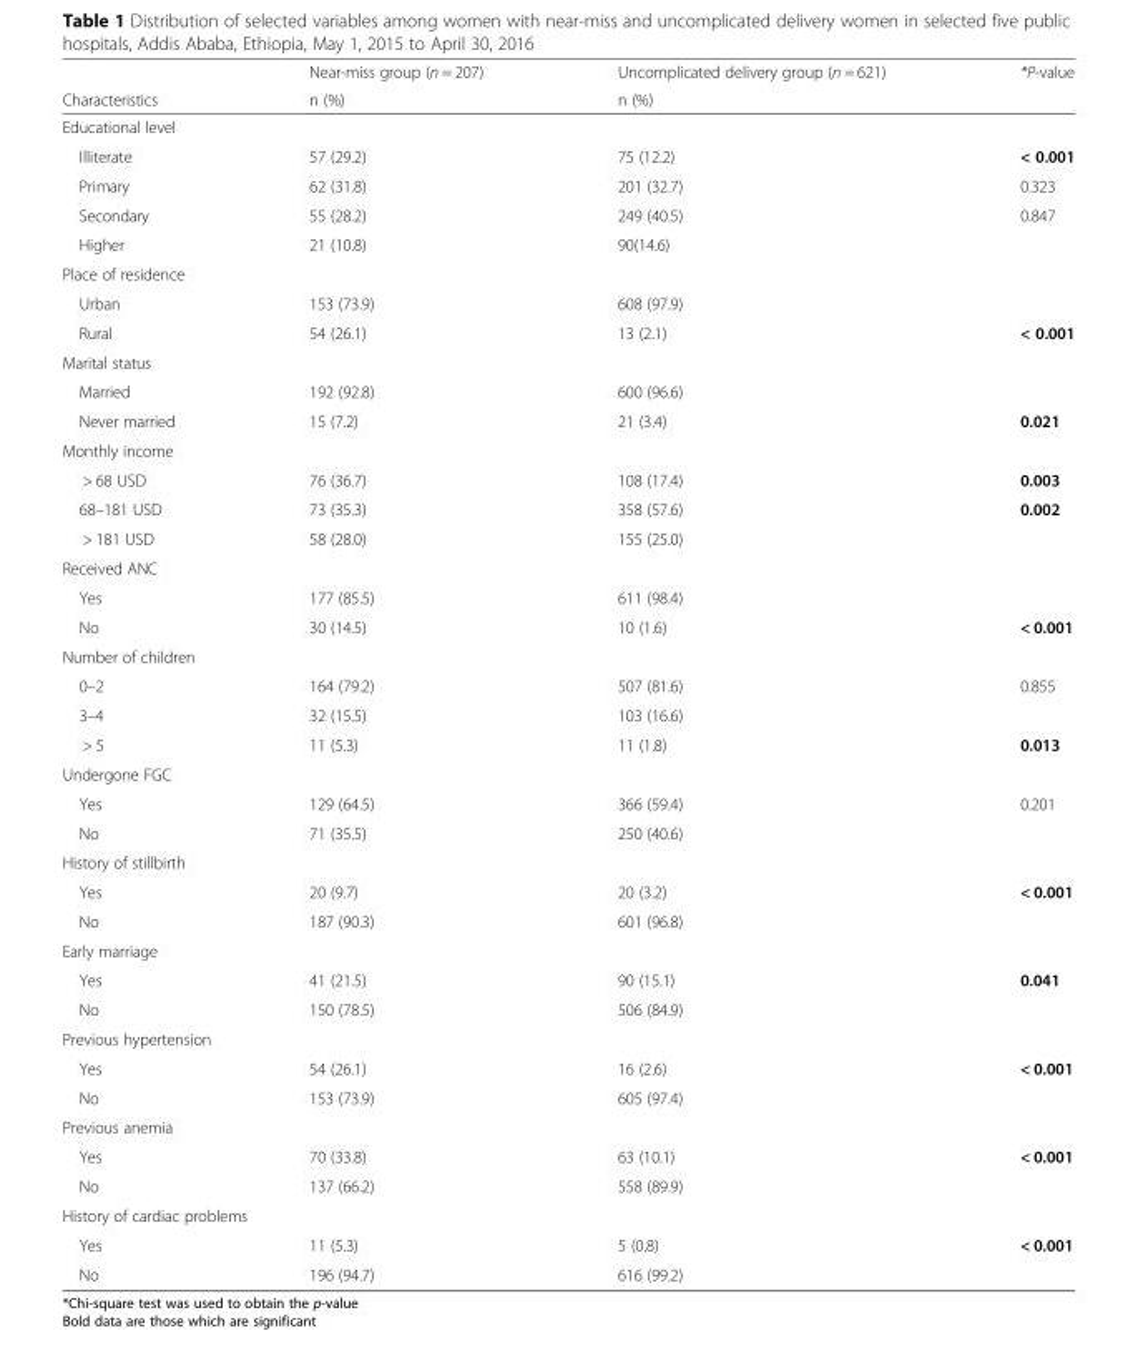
<table><thead><tr><td rowspan="2">Characteristics</td><td rowspan="2">Near-miss group (n = 207) n (%)</td><td rowspan="2">Uncomplicated delivery group (n = 621) n (%)</td><td rowspan="2">*P-value</td></tr><tr></tr></thead><tbody><tr><td colspan="4">Educational level</td></tr><tr><td>Illiterate</td><td>57 (29.2)</td><td>75 (12.2)</td><td>&lt; 0.001</td></tr><tr><td>Primary</td><td>62 (31.8)</td><td>201 (32.7)</td><td>0.323</td></tr><tr><td>Secondary</td><td>55 (28.2)</td><td>249 (40.5)</td><td>0.847</td></tr><tr><td>Higher</td><td>21 (10.8)</td><td>90(14.6)</td><td></td></tr><tr><td colspan="4">Place of residence</td></tr><tr><td>Urban</td><td>153 (73.9)</td><td>608 (97.9)</td><td></td></tr><tr><td>Rural</td><td>54 (26.1)</td><td>13 (2.1)</td><td>&lt; 0.001</td></tr><tr><td colspan="4">Marital status</td></tr><tr><td>Married</td><td>192 (92.8)</td><td>600 (96.6)</td><td></td></tr><tr><td>Never married</td><td>15 (7.2)</td><td>21 (3.4)</td><td>0.021</td></tr><tr><td colspan="4">Monthly income</td></tr><tr><td>&gt; 68 USD</td><td>76 (36.7)</td><td>108 (17.4)</td><td>0.003</td></tr><tr><td>68–181 USD</td><td>73 (35.3)</td><td>358 (57.6)</td><td>0.002</td></tr><tr><td>&gt; 181 USD</td><td>58 (28.0)</td><td>155 (25.0)</td><td></td></tr><tr><td colspan="4">Received ANC</td></tr><tr><td>Yes</td><td>177 (85.5)</td><td>611 (98.4)</td><td></td></tr><tr><td>No</td><td>30 (14.5)</td><td>10 (1.6)</td><td>&lt; 0.001</td></tr><tr><td colspan="4">Number of children</td></tr><tr><td>0–2</td><td>164 (79.2)</td><td>507 (81.6)</td><td>0.855</td></tr><tr><td>3–4</td><td>32 (15.5)</td><td>103 (16.6)</td><td></td></tr><tr><td>&gt; 5</td><td>11 (5.3)</td><td>11 (1.8)</td><td>0.013</td></tr><tr><td colspan="4">Undergone FGC</td></tr><tr><td>Yes</td><td>129 (64.5)</td><td>366 (59.4)</td><td>0.201</td></tr><tr><td>No</td><td>71 (35.5)</td><td>250 (40.6)</td><td></td></tr><tr><td colspan="4">History of stillbirth</td></tr><tr><td>Yes</td><td>20 (9.7)</td><td>20 (3.2)</td><td>&lt; 0.001</td></tr><tr><td>No</td><td>187 (90.3)</td><td>601 (96.8)</td><td></td></tr><tr><td colspan="4">Early marriage</td></tr><tr><td>Yes</td><td>41 (21.5)</td><td>90 (15.1)</td><td>0.041</td></tr><tr><td>No</td><td>150 (78.5)</td><td>506 (84.9)</td><td></td></tr><tr><td colspan="4">Previous hypertension</td></tr><tr><td>Yes</td><td>54 (26.1)</td><td>16 (2.6)</td><td>&lt; 0.001</td></tr><tr><td>No</td><td>153 (73.9)</td><td>605 (97.4)</td><td></td></tr><tr><td colspan="4">Previous anemia</td></tr><tr><td>Yes</td><td>70 (33.8)</td><td>63 (10.1)</td><td>&lt; 0.001</td></tr><tr><td>No</td><td>137 (66.2)</td><td>558 (89.9)</td><td></td></tr><tr><td colspan="4">History of cardiac problems</td></tr><tr><td>Yes</td><td>11 (5.3)</td><td>5 (0.8)</td><td>&lt; 0.001</td></tr><tr><td>No</td><td>196 (94.7)</td><td>616 (99.2)</td><td></td></tr></tbody></table>